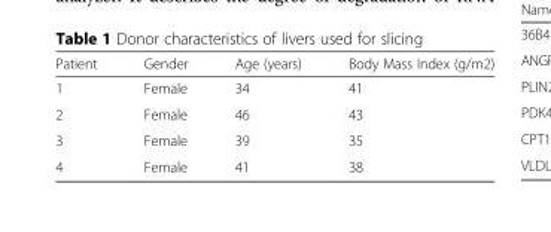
<table><thead><tr><td>Patient</td><td>Gender</td><td>Age (years)</td><td>Body Mass Index (g/m2)</td></tr></thead><tbody><tr><td>1</td><td>Female</td><td>34</td><td>41</td></tr><tr><td>2</td><td>Female</td><td>46</td><td>43</td></tr><tr><td>3</td><td>Female</td><td>39</td><td>35</td></tr><tr><td>4</td><td>Female</td><td>41</td><td>38</td></tr></tbody></table>